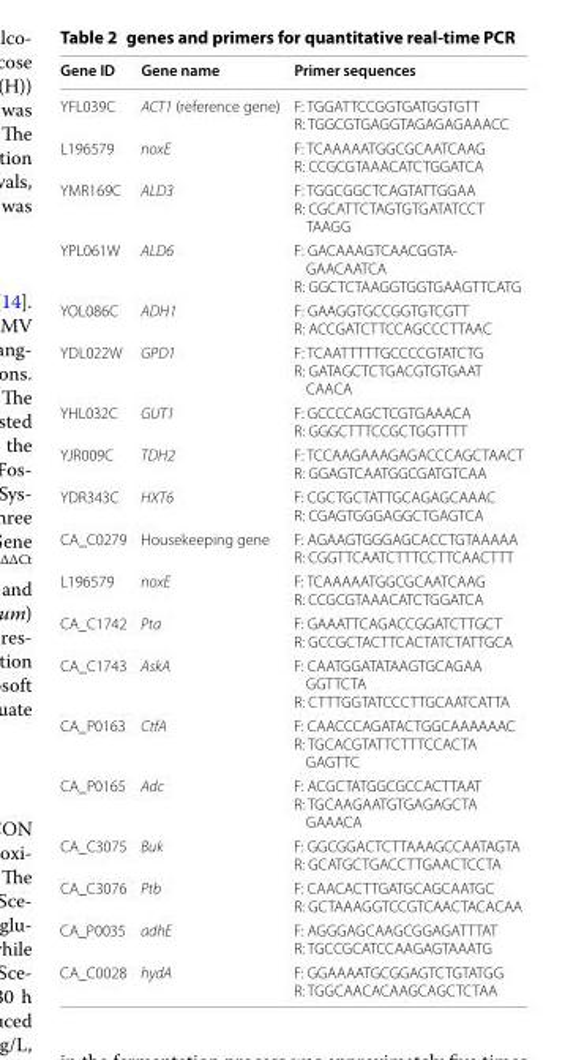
<table><thead><tr><td>Gene ID</td><td>Gene name</td><td>Primer sequences</td></tr></thead><tbody><tr><td>YFL039C</td><td>ACT1 (reference gene)</td><td>F: TGGATTCCGGTGATGGTGTT R: TGGCGTGAGGTAGAGAGAAACC</td></tr><tr><td>L196579</td><td>noxE</td><td>F: TCAAAAATGGCGCAATCAAG R: CCGCGTAAACATCTGGATCA</td></tr><tr><td>YMR169C</td><td>ALD3</td><td>F: TGGCGGCTCAGTATTGGAA R: CGCATTCTAGTGTGATATCCT TAAGG</td></tr><tr><td>YPL061W</td><td>ALD6</td><td>F: GACAAAGTCAACGGTA‑ GAACAATCA R: GGCTCTAAGGTGGTGAAGTTCATG</td></tr><tr><td>YOL086C</td><td>ADH1</td><td>F: GAAGGTGCCGGTGTCGTT R: ACCGATCTTCCAGCCCTTAAC</td></tr><tr><td>YDL022W</td><td>GPD1</td><td>F: TCAATTTTTGCCCCGTATCTG R: GATAGCTCTGACGTGTGAAT CAACA</td></tr><tr><td>YHL032C</td><td>GUT1</td><td>F: GCCCCAGCTCGTGAAACA R: GGGCTTTCCGCTGGTTTT</td></tr><tr><td>YJR009C</td><td>TDH2</td><td>F: TCCAAGAAAGAGACCCAGCTAACT R: GGAGTCAATGGCGATGTCAA</td></tr><tr><td>YDR343C</td><td>HXT6</td><td>F: CGCTGCTATTGCAGAGCAAAC R: CGAGTGGGAGGCTGAGTCA</td></tr><tr><td>CA_C0279</td><td>Housekeeping gene</td><td>F: AGAAGTGGGAGCACCTGTAAAAA R: CGGTTCAATCTTTCCTTCAACTTT</td></tr><tr><td>L196579</td><td>noxE</td><td>F: TCAAAAATGGCGCAATCAAG R: CCGCGTAAACATCTGGATCA</td></tr><tr><td>CA_C1742</td><td>Pta</td><td>F: GAAATTCAGACCGGATCTTGCT R: GCCGCTACTTCACTATCTATTGCA</td></tr><tr><td>CA_C1743</td><td>AskA</td><td>F: CAATGGATATAAGTGCAGAA GGTTCTA R: CTTTGGTATCCCTTGCAATCATTA</td></tr><tr><td>CA_P0163</td><td>CtfA</td><td>F: CAACCCAGATACTGGCAAAAAAC R: TGCACGTATTCTTTCCACTA GAGTTC</td></tr><tr><td>CA_P0165</td><td>Adc</td><td>F: ACGCTATGGCGCCACTTAAT R: TGCAAGAATGTGAGAGCTA GAAACA</td></tr><tr><td>CA_C3075</td><td>Buk</td><td>F: GGCGGACTCTTAAAGCCAATAGTA R: GCATGCTGACCTTGAACTCCTA</td></tr><tr><td>CA_C3076</td><td>Ptb</td><td>F: CAACACTTGATGCAGCAATGC R: GCTAAAGGTCCGTCAACTACACAA</td></tr><tr><td>CA_P0035</td><td>adhE</td><td>F: AGGGAGCAAGCGGAGATTTAT R: TGCCGCATCCAAGAGTAAATG</td></tr><tr><td>CA_C0028</td><td>hydA</td><td>F: GGAAAATGCGGAGTCTGTATGG R: TGGCAACACAAGCAGCTCTAA</td></tr></tbody></table>